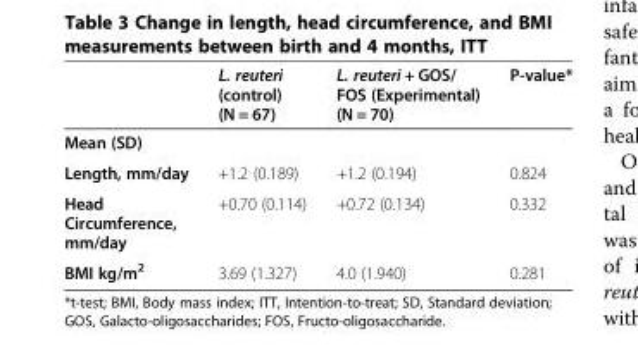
<table><thead><tr><td></td><td>L. reuteri (control) (N = 67)</td><td>L. reuteri + GOS/ FOS (Experimental) (N = 70)</td><td>P-value*</td></tr></thead><tbody><tr><td colspan="4">Mean (SD)</td></tr><tr><td>Length, mm/day</td><td>+1.2 (0.189)</td><td>+1.2 (0.194)</td><td>0.824</td></tr><tr><td>Head Circumference, mm/day</td><td>+0.70 (0.114)</td><td>+0.72 (0.134)</td><td>0.332</td></tr><tr><td>BMI kg/m<sup>2</sup></td><td>3.69 (1.327)</td><td>4.0 (1.940)</td><td>0.281</td></tr></tbody></table>